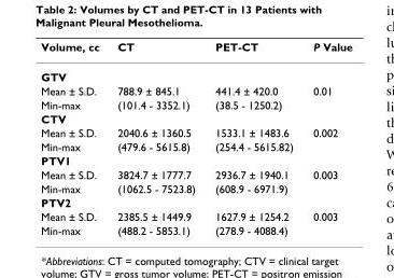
<table><thead><tr><td>Volume, cc</td><td>CT</td><td>PET-CT</td><td>P Value</td></tr></thead><tbody><tr><td colspan="4">GTV</td></tr><tr><td>Mean ± S.D.</td><td>788.9 ± 845.1</td><td>441.4 ± 420.0</td><td>0.01</td></tr><tr><td>Min-max</td><td>(101.4 - 3352.1)</td><td>(38.5 - 1250.2)</td><td></td></tr><tr><td colspan="4">CTV</td></tr><tr><td>Mean ± S.D.</td><td>2040.6 ± 1360.5</td><td>1533.1 ± 1483.6</td><td>0.002</td></tr><tr><td>Min-max</td><td>(479.6 - 5615.8)</td><td>(254.4 - 5615.82)</td><td></td></tr><tr><td colspan="4">PTV1</td></tr><tr><td>Mean ± S.D.</td><td>3824.7 ± 1777.7</td><td>2936.7 ± 1940.1</td><td>0.003</td></tr><tr><td>Min-max</td><td>(1062.5 - 7523.8)</td><td>(608.9 - 6971.9)</td><td></td></tr><tr><td colspan="4">PTV2</td></tr><tr><td>Mean ± S.D.</td><td>2385.5 ± 1449.9</td><td>1627.9 ± 1254.2</td><td>0.003</td></tr><tr><td>Min-max</td><td>(488.2 - 5853.1)</td><td>(278.9 - 4088.4)</td><td></td></tr></tbody></table>